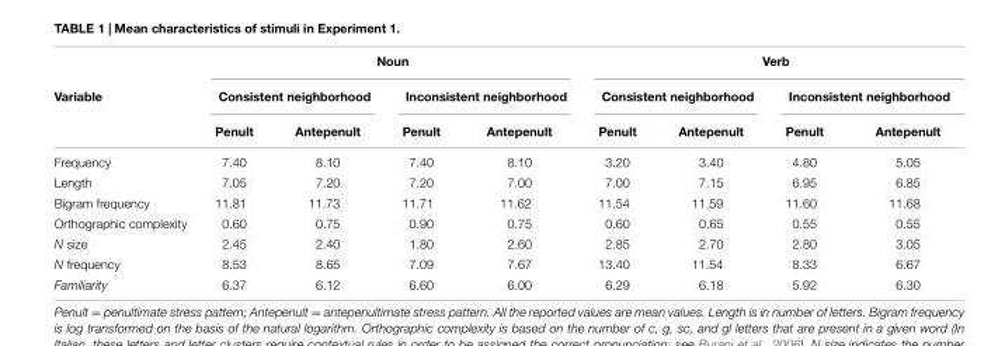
<table><thead><tr><td rowspan="3">Variable</td><td colspan="4">Noun</td><td colspan="4">Verb</td></tr><tr><td colspan="2">Consistent neighborhood</td><td colspan="2">Inconsistent neighborhood</td><td colspan="2">Consistent neighborhood</td><td colspan="2">Inconsistent neighborhood</td></tr><tr><td>Penult</td><td>Antepenult</td><td>Penult</td><td>Antepenult</td><td>Penult</td><td>Antepenult</td><td>Penult</td><td>Antepenult</td></tr></thead><tbody><tr><td>Frequency</td><td>7.40</td><td>8.10</td><td>7.40</td><td>8.10</td><td>3.20</td><td>3.40</td><td>4.80</td><td>5.05</td></tr><tr><td>Length</td><td>7.05</td><td>7.20</td><td>7.20</td><td>7.00</td><td>7.00</td><td>7.15</td><td>6.95</td><td>6.85</td></tr><tr><td>Bigram frequency</td><td>11.81</td><td>11.73</td><td>11.71</td><td>11.62</td><td>11.54</td><td>11.59</td><td>11.60</td><td>11.68</td></tr><tr><td>Orthographic complexity</td><td>0.60</td><td>0.75</td><td>0.90</td><td>0.75</td><td>0.60</td><td>0.65</td><td>0.55</td><td>0.55</td></tr><tr><td>N size</td><td>2.45</td><td>2.40</td><td>1.80</td><td>2.60</td><td>2.85</td><td>2.70</td><td>2.80</td><td>3.05</td></tr><tr><td>N frequency</td><td>8.53</td><td>8.65</td><td>7.09</td><td>7.67</td><td>13.40</td><td>11.54</td><td>8.33</td><td>6.67</td></tr><tr><td>Familiarity</td><td>6.37</td><td>6.12</td><td>6.60</td><td>6.00</td><td>6.29</td><td>6.18</td><td>5.92</td><td>6.30</td></tr></tbody></table>